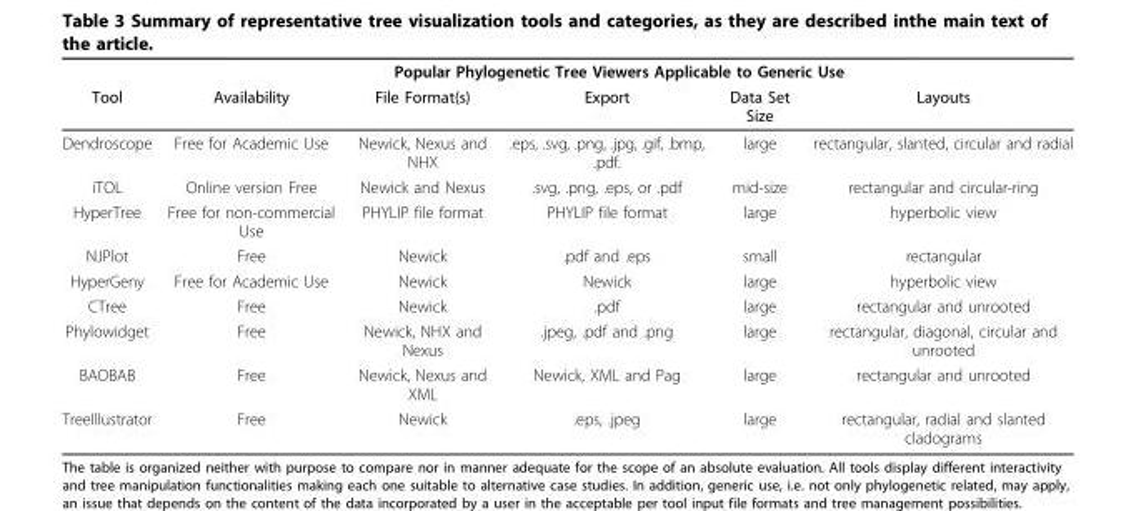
<table><thead><tr><td rowspan="2">Tool</td><td colspan="5">Popular Phylogenetic Tree Viewers Applicable to Generic Use</td></tr><tr><td>Availability</td><td>File Format(s)</td><td>Export</td><td>Data Set Size</td><td>Layouts</td></tr></thead><tbody><tr><td>Dendroscope</td><td>Free for Academic Use</td><td>Newick, Nexus and NHX</td><td>.eps, .svg, .png, .jpg, .gif, .bmp, .pdf.</td><td>large</td><td>rectangular, slanted, circular and radial</td></tr><tr><td>iTOL</td><td>Online version Free</td><td>Newick and Nexus</td><td>.svg, .png, .eps, or .pdf</td><td>mid-size</td><td>rectangular and circular-ring</td></tr><tr><td>HyperTree</td><td>Free for non-commercial Use</td><td>PHYLIP file format</td><td>PHYLIP file format</td><td>large</td><td>hyperbolic view</td></tr><tr><td>NJPlot</td><td>Free</td><td>Newick</td><td>.pdf and .eps</td><td>small</td><td>rectangular</td></tr><tr><td>HyperGeny</td><td>Free for Academic Use</td><td>Newick</td><td>Newick</td><td>large</td><td>hyperbolic view</td></tr><tr><td>CTree</td><td>Free</td><td>Newick</td><td>.pdf</td><td>large</td><td>rectangular and unrooted</td></tr><tr><td>Phylowidget</td><td>Free</td><td>Newick, NHX and Nexus</td><td>.jpeg, .pdf and .png</td><td>large</td><td>rectangular, diagonal, circular and unrooted</td></tr><tr><td>BAOBAB</td><td>Free</td><td>Newick, Nexus and XML</td><td>Newick, XML and Pag</td><td>large</td><td>rectangular and unrooted</td></tr><tr><td>TreeIllustrator</td><td>Free</td><td>Newick</td><td>.eps, .jpeg</td><td>large</td><td>rectangular, radial and slanted cladograms</td></tr></tbody></table>